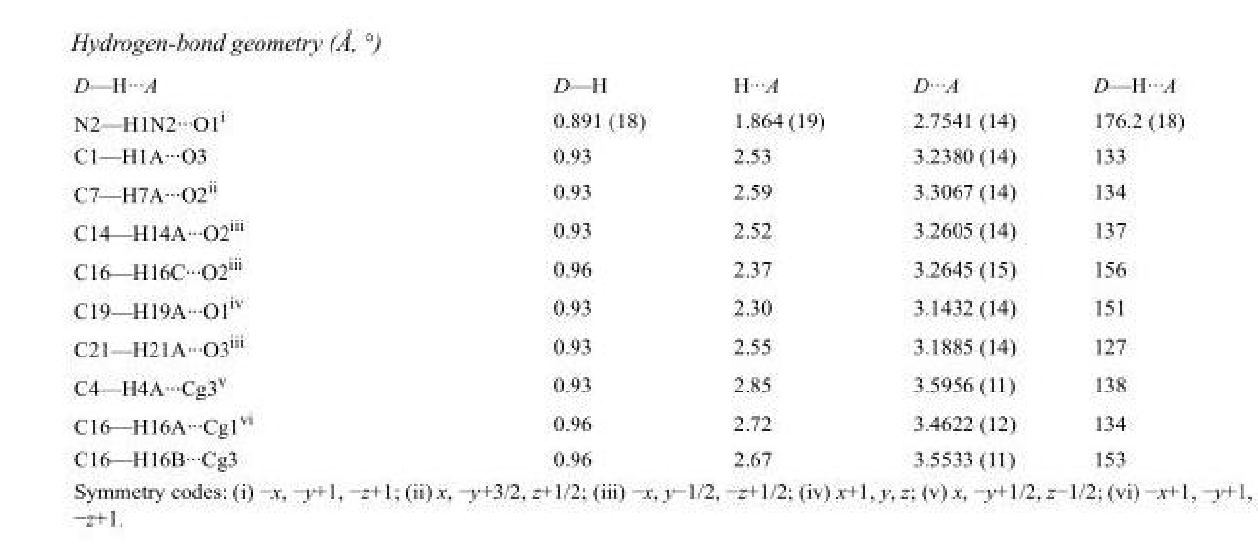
<table><tbody><tr><td>D—H···A</td><td>D—H</td><td>H···A</td><td>D···A</td><td>D—H···A</td></tr><tr><td>N2—H1N2···O1<sup>i</sup></td><td>0.891 (18)</td><td>1.864 (19)</td><td>2.7541 (14)</td><td>176.2 (18)</td></tr><tr><td>C1—H1A···O3</td><td>0.93</td><td>2.53</td><td>3.2380 (14)</td><td>133</td></tr><tr><td>C7—H7A···O2<sup>ii</sup></td><td>0.93</td><td>2.59</td><td>3.3067 (14)</td><td>134</td></tr><tr><td>C14—H14A···O2<sup>iii</sup></td><td>0.93</td><td>2.52</td><td>3.2605 (14)</td><td>137</td></tr><tr><td>C16—H16C···O2<sup>iii</sup></td><td>0.96</td><td>2.37</td><td>3.2645 (15)</td><td>156</td></tr><tr><td>C19—H19A···O1<sup>iv</sup></td><td>0.93</td><td>2.30</td><td>3.1432 (14)</td><td>151</td></tr><tr><td>C21—H21A···O3<sup>iii</sup></td><td>0.93</td><td>2.55</td><td>3.1885 (14)</td><td>127</td></tr><tr><td>C4—H4A···Cg3<sup>v</sup></td><td>0.93</td><td>2.85</td><td>3.5956 (11)</td><td>138</td></tr><tr><td>C16—H16A···Cg1<sup>vi</sup></td><td>0.96</td><td>2.72</td><td>3.4622 (12)</td><td>134</td></tr><tr><td>C16—H16B···Cg3</td><td>0.96</td><td>2.67</td><td>3.5533 (11)</td><td>153</td></tr></tbody></table>